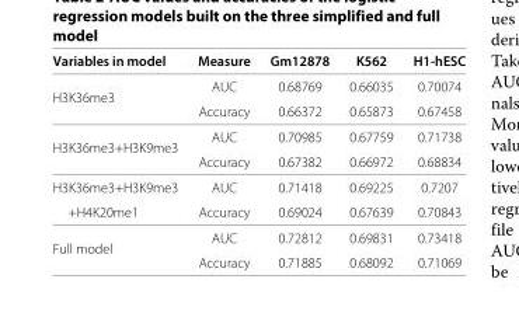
<table><thead><tr><td>Variables in model</td><td>Measure</td><td>Gm12878</td><td>K562</td><td>H1-hESC</td></tr></thead><tbody><tr><td rowspan="2">H3K36me3</td><td>AUC</td><td>0.68769</td><td>0.66035</td><td>0.70074</td></tr><tr><td>Accuracy</td><td>0.66372</td><td>0.65873</td><td>0.67458</td></tr><tr><td rowspan="2">H3K36me3+H3K9me3</td><td>AUC</td><td>0.70985</td><td>0.67759</td><td>0.71738</td></tr><tr><td>Accuracy</td><td>0.67382</td><td>0.66972</td><td>0.68834</td></tr><tr><td>H3K36me3+H3K9me3</td><td>AUC</td><td>0.71418</td><td>0.69225</td><td>0.7207</td></tr><tr><td>+H4K20me1</td><td>Accuracy</td><td>0.69024</td><td>0.67639</td><td>0.70843</td></tr><tr><td rowspan="2">Full model</td><td>AUC</td><td>0.72812</td><td>0.69831</td><td>0.73418</td></tr><tr><td>Accuracy</td><td>0.71885</td><td>0.68092</td><td>0.71069</td></tr></tbody></table>